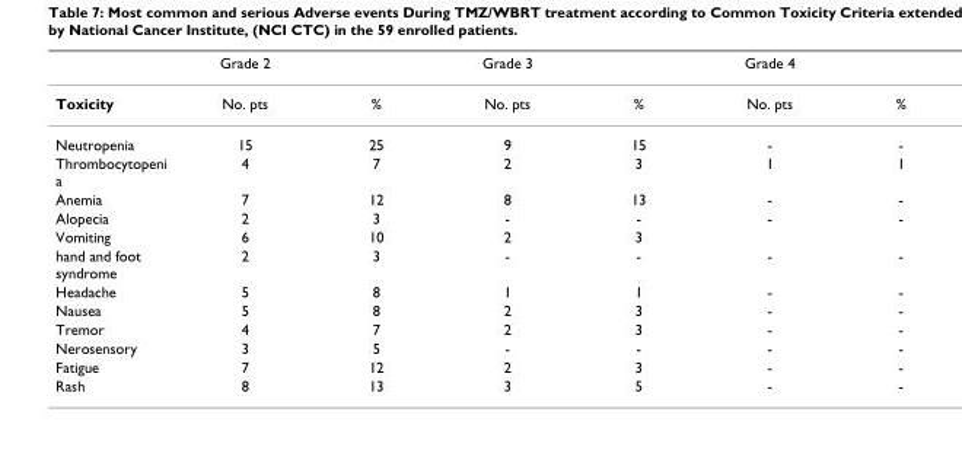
<table><thead><tr><td></td><td>Grade 2</td><td></td><td>Grade 3</td><td></td><td>Grade 4</td><td></td></tr></thead><tbody><tr><td>Toxicity</td><td>No. pts</td><td>%</td><td>No. pts</td><td>%</td><td>No. pts</td><td>%</td></tr><tr><td>Neutropenia</td><td>15</td><td>25</td><td>9</td><td>15</td><td>-</td><td>-</td></tr><tr><td>Thrombocytopeni a</td><td>4</td><td>7</td><td>2</td><td>3</td><td>1</td><td>1</td></tr><tr><td>Anemia</td><td>7</td><td>12</td><td>8</td><td>13</td><td>-</td><td>-</td></tr><tr><td>Alopecia</td><td>2</td><td>3</td><td>-</td><td>-</td><td>-</td><td>-</td></tr><tr><td>Vomiting</td><td>6</td><td>10</td><td>2</td><td>3</td><td></td><td></td></tr><tr><td>hand and foot syndrome</td><td>2</td><td>3</td><td>-</td><td>-</td><td>-</td><td>-</td></tr><tr><td>Headache</td><td>5</td><td>8</td><td>1</td><td>1</td><td>-</td><td>-</td></tr><tr><td>Nausea</td><td>5</td><td>8</td><td>2</td><td>3</td><td>-</td><td>-</td></tr><tr><td>Tremor</td><td>4</td><td>7</td><td>2</td><td>3</td><td>-</td><td>-</td></tr><tr><td>Nerosensory</td><td>3</td><td>5</td><td>-</td><td>-</td><td>-</td><td>-</td></tr><tr><td>Fatigue</td><td>7</td><td>12</td><td>2</td><td>3</td><td>-</td><td>-</td></tr><tr><td>Rash</td><td>8</td><td>13</td><td>3</td><td>5</td><td>-</td><td>-</td></tr></tbody></table>